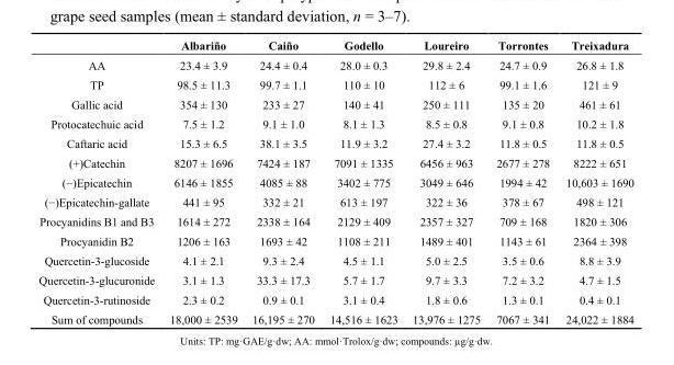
<table><thead><tr><td></td><td>Albariño</td><td>Caiño</td><td>Godello</td><td>Loureiro</td><td>Torrontes</td><td>Treixadura</td></tr></thead><tbody><tr><td>AA</td><td>23.4 ± 3.9</td><td>24.4 ± 0.4</td><td>28.0 ± 0.3</td><td>29.8 ± 2.4</td><td>24.7 ± 0.9</td><td>26.8 ± 1.8</td></tr><tr><td>TP</td><td>98.5 ± 11.3</td><td>99.7 ± 1.1</td><td>110 ± 10</td><td>112 ± 6</td><td>99.1 ± 1.6</td><td>121 ± 9</td></tr><tr><td>Gallic acid</td><td>354 ± 130</td><td>233 ± 27</td><td>140 ± 41</td><td>250 ± 111</td><td>135 ± 20</td><td>461 ± 61</td></tr><tr><td>Protocatechuic acid</td><td>7.5 ± 1.2</td><td>9.1 ± 1.0</td><td>8.1 ± 1.3</td><td>8.5 ± 0.8</td><td>9.1 ± 0.8</td><td>10.2 ± 1.8</td></tr><tr><td>Caftaric acid</td><td>15.3 ± 6.5</td><td>38.1 ± 3.5</td><td>11.9 ± 3.2</td><td>27.4 ± 3.2</td><td>11.8 ± 0.5</td><td>11.8 ± 0.5</td></tr><tr><td>(+)Catechin</td><td>8207 ± 1696</td><td>7424 ± 187</td><td>7091 ± 1335</td><td>6456 ± 963</td><td>2677 ± 278</td><td>8222 ± 651</td></tr><tr><td>(−)Epicatechin</td><td>6146 ± 1855</td><td>4085 ± 88</td><td>3402 ± 775</td><td>3049 ± 646</td><td>1994 ± 42</td><td>10,603 ± 1690</td></tr><tr><td>(−)Epicatechin-gallate</td><td>441 ± 95</td><td>332 ± 21</td><td>613 ± 197</td><td>322 ± 36</td><td>378 ± 67</td><td>498 ± 121</td></tr><tr><td>Procyanidins B1 and B3</td><td>1614 ± 272</td><td>2338 ± 164</td><td>2129 ± 409</td><td>2357 ± 327</td><td>709 ± 168</td><td>1820 ± 306</td></tr><tr><td>Procyanidin B2</td><td>1206 ± 163</td><td>1693 ± 42</td><td>1108 ± 211</td><td>1489 ± 401</td><td>1143 ± 61</td><td>2364 ± 398</td></tr><tr><td>Quercetin-3-glucoside</td><td>4.1 ± 2.1</td><td>9.3 ± 2.4</td><td>4.5 ± 1.1</td><td>5.0 ± 2.5</td><td>3.5 ± 0.6</td><td>8.8 ± 3.9</td></tr><tr><td>Quercetin-3-glucuronide</td><td>3.1 ± 1.3</td><td>33.3 ± 17.3</td><td>5.7 ± 1.7</td><td>9.7 ± 3.3</td><td>7.2 ± 3.2</td><td>4.7 ± 1.5</td></tr><tr><td>Quercetin-3-rutinoside</td><td>2.3 ± 0.2</td><td>0.9 ± 0.1</td><td>3.1 ± 0.4</td><td>1.8 ± 0.6</td><td>1.3 ± 0.1</td><td>0.4 ± 0.1</td></tr><tr><td>Sum of compounds</td><td>18,000 ± 2539</td><td>16,195 ± 270</td><td>14,516 ± 1623</td><td>13,976 ± 1275</td><td>7067 ± 341</td><td>24,022 ± 1884</td></tr></tbody></table>